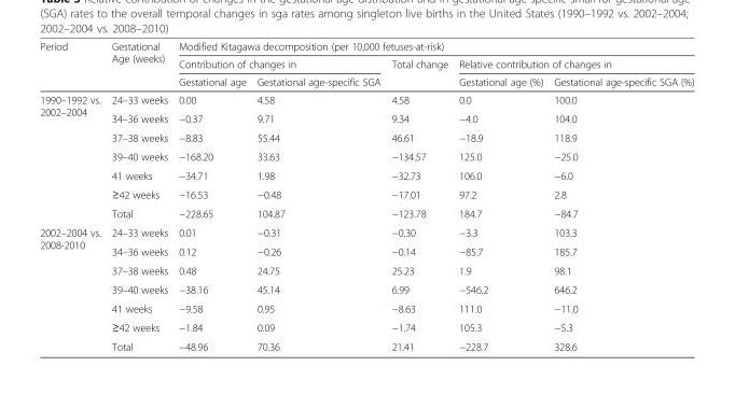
<table><thead><tr><td rowspan="3">Period</td><td rowspan="3">Gestational Age (weeks)</td><td colspan="5">Modified Kitagawa decomposition (per 10,000 fetuses-at-risk)</td></tr><tr><td colspan="2">Contribution of changes in</td><td rowspan="2">Total change</td><td colspan="2">Relative contribution of changes in</td></tr><tr><td>Gestational age</td><td>Gestational age-specific SGA</td><td>Gestational age (%)</td><td>Gestational age-specific SGA (%)</td></tr></thead><tbody><tr><td rowspan="7">1990–1992 vs. 2002–2004</td><td>24–33 weeks</td><td>0.00</td><td>4.58</td><td>4.58</td><td>0.0</td><td>100.0</td></tr><tr><td>34–36 weeks</td><td>−0.37</td><td>9.71</td><td>9.34</td><td>−4.0</td><td>104.0</td></tr><tr><td>37–38 weeks</td><td>−8.83</td><td>55.44</td><td>46.61</td><td>−18.9</td><td>118.9</td></tr><tr><td>39–40 weeks</td><td>−168.20</td><td>33.63</td><td>−134.57</td><td>125.0</td><td>−25.0</td></tr><tr><td>41 weeks</td><td>−34.71</td><td>1.98</td><td>−32.73</td><td>106.0</td><td>−6.0</td></tr><tr><td>≥42 weeks</td><td>−16.53</td><td>−0.48</td><td>−17.01</td><td>97.2</td><td>2.8</td></tr><tr><td>Total</td><td>−228.65</td><td>104.87</td><td>−123.78</td><td>184.7</td><td>−84.7</td></tr><tr><td rowspan="7">2002–2004 vs. 2008-2010</td><td>24–33 weeks</td><td>0.01</td><td>−0.31</td><td>−0.30</td><td>−3.3</td><td>103.3</td></tr><tr><td>34–36 weeks</td><td>0.12</td><td>−0.26</td><td>−0.14</td><td>−85.7</td><td>185.7</td></tr><tr><td>37–38 weeks</td><td>0.48</td><td>24.75</td><td>25.23</td><td>1.9</td><td>98.1</td></tr><tr><td>39–40 weeks</td><td>−38.16</td><td>45.14</td><td>6.99</td><td>−546.2</td><td>646.2</td></tr><tr><td>41 weeks</td><td>−9.58</td><td>0.95</td><td>−8.63</td><td>111.0</td><td>−11.0</td></tr><tr><td>≥42 weeks</td><td>−1.84</td><td>0.09</td><td>−1.74</td><td>105.3</td><td>−5.3</td></tr><tr><td>Total</td><td>−48.96</td><td>70.36</td><td>21.41</td><td>−228.7</td><td>328.6</td></tr></tbody></table>